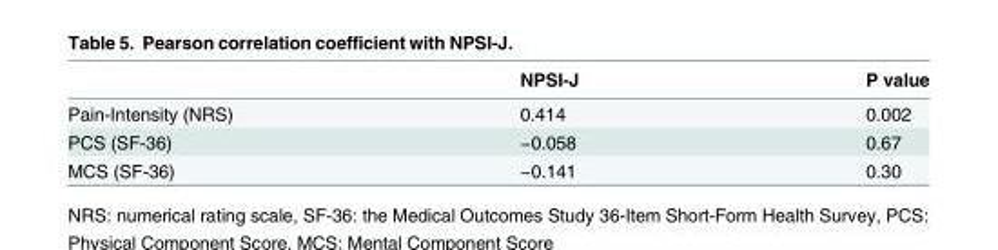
<table><thead><tr><td></td><td>NPSI-J</td><td>P value</td></tr></thead><tbody><tr><td>Pain-Intensity (NRS)</td><td>0.414</td><td>0.002</td></tr><tr><td>PCS (SF-36)</td><td>−0.058</td><td>0.67</td></tr><tr><td>MCS (SF-36)</td><td>−0.141</td><td>0.30</td></tr></tbody></table>